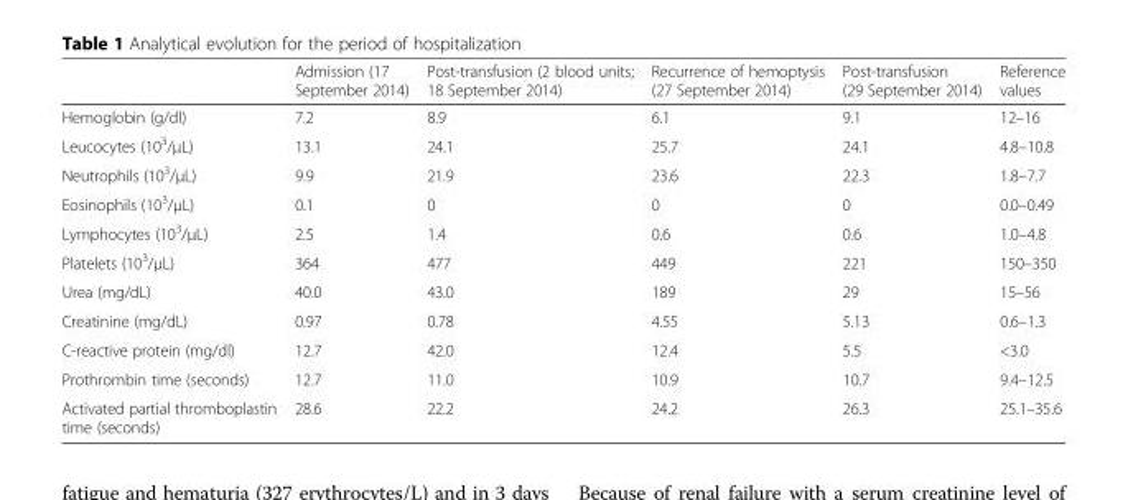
<table><thead><tr><td></td><td>Admission (17 September 2014)</td><td>Post-transfusion (2 blood units; 18 September 2014)</td><td>Recurrence of hemoptysis (27 September 2014)</td><td>Post-transfusion (29 September 2014)</td><td>Reference values</td></tr></thead><tbody><tr><td>Hemoglobin (g/dl)</td><td>7.2</td><td>8.9</td><td>6.1</td><td>9.1</td><td>12–16</td></tr><tr><td>Leucocytes (10<sup>3</sup>/μL)</td><td>13.1</td><td>24.1</td><td>25.7</td><td>24.1</td><td>4.8–10.8</td></tr><tr><td>Neutrophils (10<sup>3</sup>/μL)</td><td>9.9</td><td>21.9</td><td>23.6</td><td>22.3</td><td>1.8–7.7</td></tr><tr><td>Eosinophils (10<sup>3</sup>/μL)</td><td>0.1</td><td>0</td><td>0</td><td>0</td><td>0.0–0.49</td></tr><tr><td>Lymphocytes (10<sup>3</sup>/μL)</td><td>2.5</td><td>1.4</td><td>0.6</td><td>0.6</td><td>1.0–4.8</td></tr><tr><td>Platelets (10<sup>3</sup>/μL)</td><td>364</td><td>477</td><td>449</td><td>221</td><td>150–350</td></tr><tr><td>Urea (mg/dL)</td><td>40.0</td><td>43.0</td><td>189</td><td>29</td><td>15–56</td></tr><tr><td>Creatinine (mg/dL)</td><td>0.97</td><td>0.78</td><td>4.55</td><td>5.13</td><td>0.6–1.3</td></tr><tr><td>C-reactive protein (mg/dl)</td><td>12.7</td><td>42.0</td><td>12.4</td><td>5.5</td><td>&lt;3.0</td></tr><tr><td>Prothrombin time (seconds)</td><td>12.7</td><td>11.0</td><td>10.9</td><td>10.7</td><td>9.4–12.5</td></tr><tr><td>Activated partial thromboplastin time (seconds)</td><td>28.6</td><td>22.2</td><td>24.2</td><td>26.3</td><td>25.1–35.6</td></tr></tbody></table>